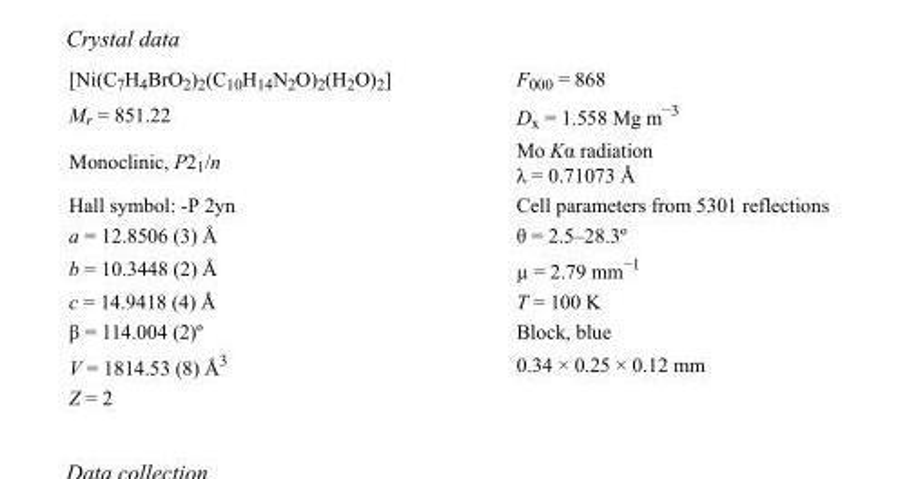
<table><tbody><tr><td>[Ni(C<sub>7</sub>H<sub>4</sub>BrO<sub>2</sub>)<sub>2</sub>(C<sub>10</sub>H<sub>14</sub>N<sub>2</sub>O)<sub>2</sub>(H<sub>2</sub>O)<sub>2</sub>]</td><td>F000 = 868</td></tr><tr><td>M<sub>r</sub> = 851.22</td><td>D<sub>x</sub> = 1.558 Mg m<sup>−3</sup></td></tr><tr><td>Monoclinic, P2<sub>1</sub>/n</td><td>Mo Kα radiation λ = 0.71073 Å</td></tr><tr><td>Hall symbol: -P 2yn</td><td>Cell parameters from 5301 reflections</td></tr><tr><td>a = 12.8506 (3) Å</td><td>θ = 2.5–28.3º</td></tr><tr><td>b = 10.3448 (2) Å</td><td>µ = 2.79 mm<sup>−1</sup></td></tr><tr><td>c = 14.9418 (4) Å</td><td>T = 100 K</td></tr><tr><td>β = 114.004 (2)º</td><td>Block, blue</td></tr><tr><td>V = 1814.53 (8) Å<sup>3</sup></td><td>0.34 × 0.25 × 0.12 mm</td></tr><tr><td>Z = 2</td><td></td></tr></tbody></table>